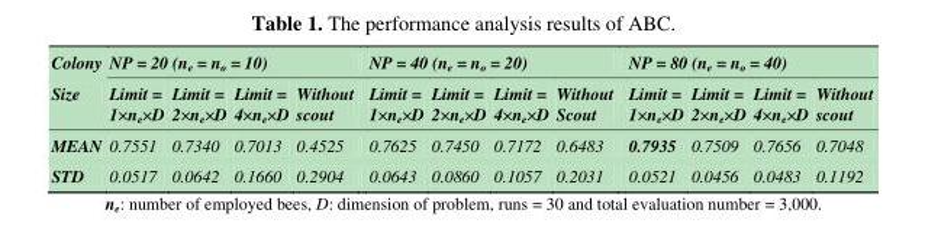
<table><thead><tr><td rowspan="2">Colony Size</td><td colspan="4">NP = 20 (n<sub>e</sub> = n<sub>o</sub> = 10)</td><td colspan="4">NP = 40 (n<sub>e</sub> = n<sub>o</sub> = 20)</td><td colspan="4">NP = 80 (n<sub>e</sub> = n<sub>o</sub> = 40)</td></tr><tr><td>Limit = 1×n<sub>e</sub>×D</td><td>Limit = 2×n<sub>e</sub>×D</td><td>Limit = 4×n<sub>e</sub>×D</td><td>Without scout</td><td>Limit = 1×n<sub>e</sub>×D</td><td>Limit = 2×n<sub>e</sub>×D</td><td>Limit = 4×n<sub>e</sub>×D</td><td>Without Scout</td><td>Limit = 1×n<sub>e</sub>×D</td><td>Limit = 2×n<sub>e</sub>×D</td><td>Limit = 4×n<sub>e</sub>×D</td><td>Without scout</td></tr></thead><tbody><tr><td>MEAN</td><td>0.7551</td><td>0.7340</td><td>0.7013</td><td>0.4525</td><td>0.7625</td><td>0.7450</td><td>0.7172</td><td>0.6483</td><td>0.7935</td><td>0.7509</td><td>0.7656</td><td>0.7048</td></tr><tr><td>STD</td><td>0.0517</td><td>0.0642</td><td>0.1660</td><td>0.2904</td><td>0.0643</td><td>0.0860</td><td>0.1057</td><td>0.2031</td><td>0.0521</td><td>0.0456</td><td>0.0483</td><td>0.1192</td></tr></tbody></table>